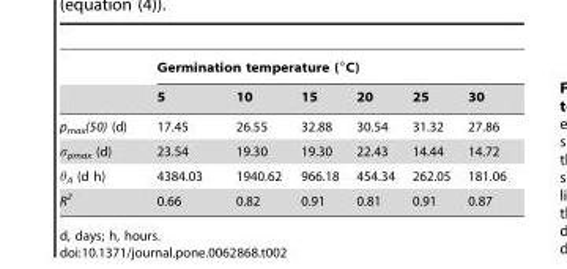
<table><thead><tr><td rowspan="2"></td><td colspan="6">Germination temperature (°C)</td></tr><tr><td>5</td><td>10</td><td>15</td><td>20</td><td>25</td><td>30</td></tr></thead><tbody><tr><td>p<sub>max</sub>(50) (d)</td><td>17.45</td><td>26.55</td><td>32.88</td><td>30.54</td><td>31.32</td><td>27.86</td></tr><tr><td>σ<sub>pmax</sub> (d)</td><td>23.54</td><td>19.30</td><td>19.30</td><td>22.43</td><td>14.44</td><td>14.72</td></tr><tr><td>θ<sub>A</sub> (d h)</td><td>4384.03</td><td>1940.62</td><td>966.18</td><td>454.34</td><td>262.05</td><td>181.06</td></tr><tr><td>R<sup>2</sup></td><td>0.66</td><td>0.82</td><td>0.91</td><td>0.81</td><td>0.91</td><td>0.87</td></tr></tbody></table>